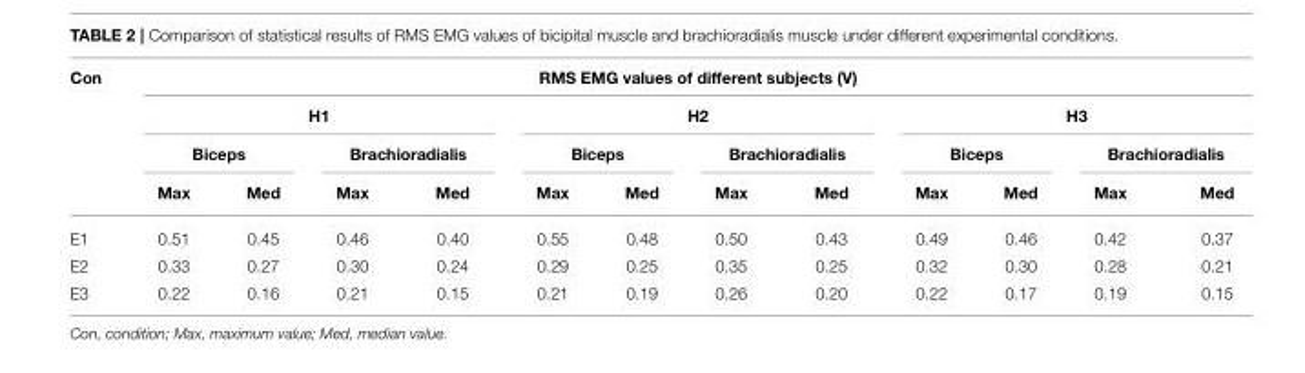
<table><thead><tr><td rowspan="4">Con</td><td colspan="12">RMS EMG values of different subjects (V)</td></tr><tr><td colspan="4">H1</td><td colspan="4">H2</td><td colspan="4">H3</td></tr><tr><td colspan="2">Biceps</td><td colspan="2">Brachioradialis</td><td colspan="2">Biceps</td><td colspan="2">Brachioradialis</td><td colspan="2">Biceps</td><td colspan="2">Brachioradialis</td></tr><tr><td>Max</td><td>Med</td><td>Max</td><td>Med</td><td>Max</td><td>Med</td><td>Max</td><td>Med</td><td>Max</td><td>Med</td><td>Max</td><td>Med</td></tr></thead><tbody><tr><td>E1</td><td>0.51</td><td>0.45</td><td>0.46</td><td>0.40</td><td>0.55</td><td>0.48</td><td>0.50</td><td>0.43</td><td>0.49</td><td>0.46</td><td>0.42</td><td>0.37</td></tr><tr><td>E2</td><td>0.33</td><td>0.27</td><td>0.30</td><td>0.24</td><td>0.29</td><td>0.25</td><td>0.35</td><td>0.25</td><td>0.32</td><td>0.30</td><td>0.28</td><td>0.21</td></tr><tr><td>E3</td><td>0.22</td><td>0.16</td><td>0.21</td><td>0.15</td><td>0.21</td><td>0.19</td><td>0.26</td><td>0.20</td><td>0.22</td><td>0.17</td><td>0.19</td><td>0.15</td></tr></tbody></table>